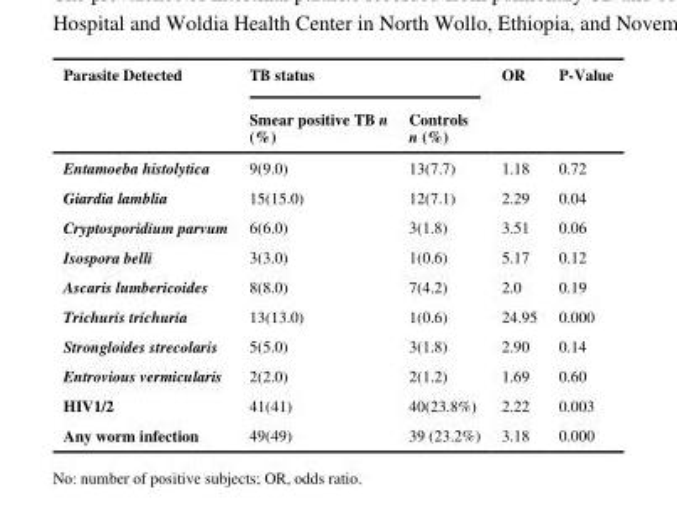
<table><thead><tr><td rowspan="2">Parasite Detected</td><td colspan="2">TB status</td><td rowspan="2">OR</td><td rowspan="2">P-Value</td></tr><tr><td>Smear positive TB n (%)</td><td>Controls n (%)</td></tr></thead><tbody><tr><td>Entamoeba histolytica</td><td>9(9.0)</td><td>13(7.7)</td><td>1.18</td><td>0.72</td></tr><tr><td>Giardia lamblia</td><td>15(15.0)</td><td>12(7.1)</td><td>2.29</td><td>0.04</td></tr><tr><td>Cryptosporidium parvum</td><td>6(6.0)</td><td>3(1.8)</td><td>3.51</td><td>0.06</td></tr><tr><td>Isospora belli</td><td>3(3.0)</td><td>1(0.6)</td><td>5.17</td><td>0.12</td></tr><tr><td>Ascaris lumbericoides</td><td>8(8.0)</td><td>7(4.2)</td><td>2.0</td><td>0.19</td></tr><tr><td>Trichuris trichuria</td><td>13(13.0)</td><td>1(0.6)</td><td>24.95</td><td>0.000</td></tr><tr><td>Strongloides strecolaris</td><td>5(5.0)</td><td>3(1.8)</td><td>2.90</td><td>0.14</td></tr><tr><td>Entrovious vermicularis</td><td>2(2.0)</td><td>2(1.2)</td><td>1.69</td><td>0.60</td></tr><tr><td>HIV1/2</td><td>41(41)</td><td>40(23.8%)</td><td>2.22</td><td>0.003</td></tr><tr><td>Any worm infection</td><td>49(49)</td><td>39 (23.2%)</td><td>3.18</td><td>0.000</td></tr></tbody></table>